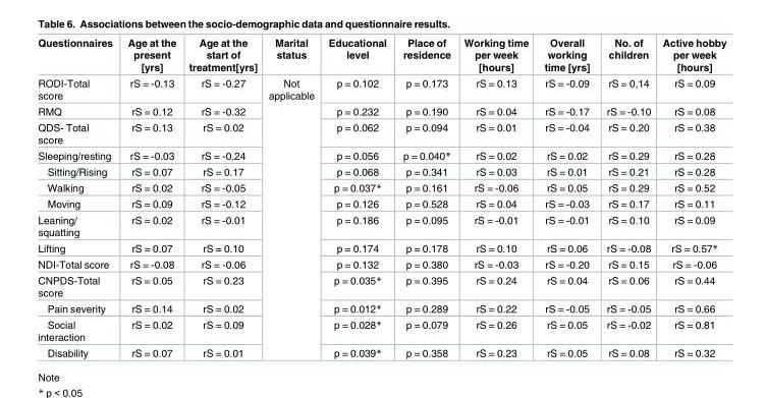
<table><thead><tr><td>Questionnaires</td><td>Age at the present [yrs]</td><td>Age at the start of treatment[yrs]</td><td>Marital status</td><td>Educational level</td><td>Place of residence</td><td>Working time per week [hours]</td><td>Overall working time [yrs]</td><td>No. of children</td><td>Active hobby per week [hours]</td></tr></thead><tbody><tr><td>RODI-Total score</td><td>rS = -0.13</td><td>rS = -0.27</td><td rowspan="14">Not applicable</td><td>p = 0.102</td><td>p = 0.173</td><td>rS = 0.13</td><td>rS = -0.09</td><td>rS = 0,14</td><td>rS = 0.09</td></tr><tr><td>RMQ</td><td>rS = 0.12</td><td>rS = -0.32</td><td>p = 0.232</td><td>p = 0.190</td><td>rS = 0.04</td><td>rS = -0.17</td><td>rS = -0.10</td><td>rS = 0.08</td></tr><tr><td>QDS- Total score</td><td>rS = 0.13</td><td>rS = 0.02</td><td>p = 0.062</td><td>p = 0.094</td><td>rS = 0.01</td><td>rS = -0.04</td><td>rS = 0.20</td><td>rS = 0.38</td></tr><tr><td>Sleeping/resting</td><td>rS = -0.03</td><td>rS = -0.24</td><td>p = 0.056</td><td>p = 0.040*</td><td>rS = 0.02</td><td>rS = 0.02</td><td>rS = 0.29</td><td>rS = 0.28</td></tr><tr><td>Sitting/Rising</td><td>rS = 0.07</td><td>rS = 0.17</td><td>p = 0.068</td><td>p = 0.341</td><td>rS = 0.03</td><td>rS = 0.01</td><td>rS = 0.21</td><td>rS = 0.28</td></tr><tr><td>Walking</td><td>rS = 0.02</td><td>rS = -0.05</td><td>p = 0.037*</td><td>p = 0.161</td><td>rS = -0.06</td><td>rS = 0.05</td><td>rS = 0.29</td><td>rS = 0.52</td></tr><tr><td>Moving</td><td>rS = 0.09</td><td>rS = -0.12</td><td>p = 0.126</td><td>p = 0.528</td><td>rS = 0.04</td><td>rS = -0.03</td><td>rS = 0.17</td><td>rS = 0.11</td></tr><tr><td>Leaning/ squatting</td><td>rS = 0.02</td><td>rS = -0.01</td><td>p = 0.186</td><td>p = 0.095</td><td>rS = -0.01</td><td>rS = -0.01</td><td>rS = 0.10</td><td>rS = 0.09</td></tr><tr><td>Lifting</td><td>rS = 0.07</td><td>rS = 0.10</td><td>p = 0.174</td><td>p = 0.178</td><td>rS = 0.10</td><td>rS = 0.06</td><td>rS = -0.08</td><td>rS = 0.57*</td></tr><tr><td>NDI-Total score</td><td>rS = -0.08</td><td>rS = -0.06</td><td>p = 0.132</td><td>p = 0.380</td><td>rS = -0.03</td><td>rS = -0.20</td><td>rS = 0.15</td><td>rS = -0.06</td></tr><tr><td>CNPDS-Total score</td><td>rS = 0.05</td><td>rS = 0.23</td><td>p = 0.035*</td><td>p = 0.395</td><td>rS = 0.24</td><td>rS = 0.04</td><td>rS = 0.06</td><td>rS = 0.44</td></tr><tr><td>Pain severity</td><td>rS = 0.14</td><td>rS = 0.02</td><td>p = 0.012*</td><td>p = 0.289</td><td>rS = 0.22</td><td>rS = -0.05</td><td>rS = -0.05</td><td>rS = 0.66</td></tr><tr><td>Social interaction</td><td>rS = 0.02</td><td>rS = 0.09</td><td>p = 0.028*</td><td>p = 0.079</td><td>rS = 0.26</td><td>rS = 0.05</td><td>rS = -0.02</td><td>rS = 0.81</td></tr><tr><td>Disability</td><td>rS = 0.07</td><td>rS = 0.01</td><td>p = 0.039*</td><td>p = 0.358</td><td>rS = 0.23</td><td>rS = 0.05</td><td>rS = 0.08</td><td>rS = 0.32</td></tr></tbody></table>